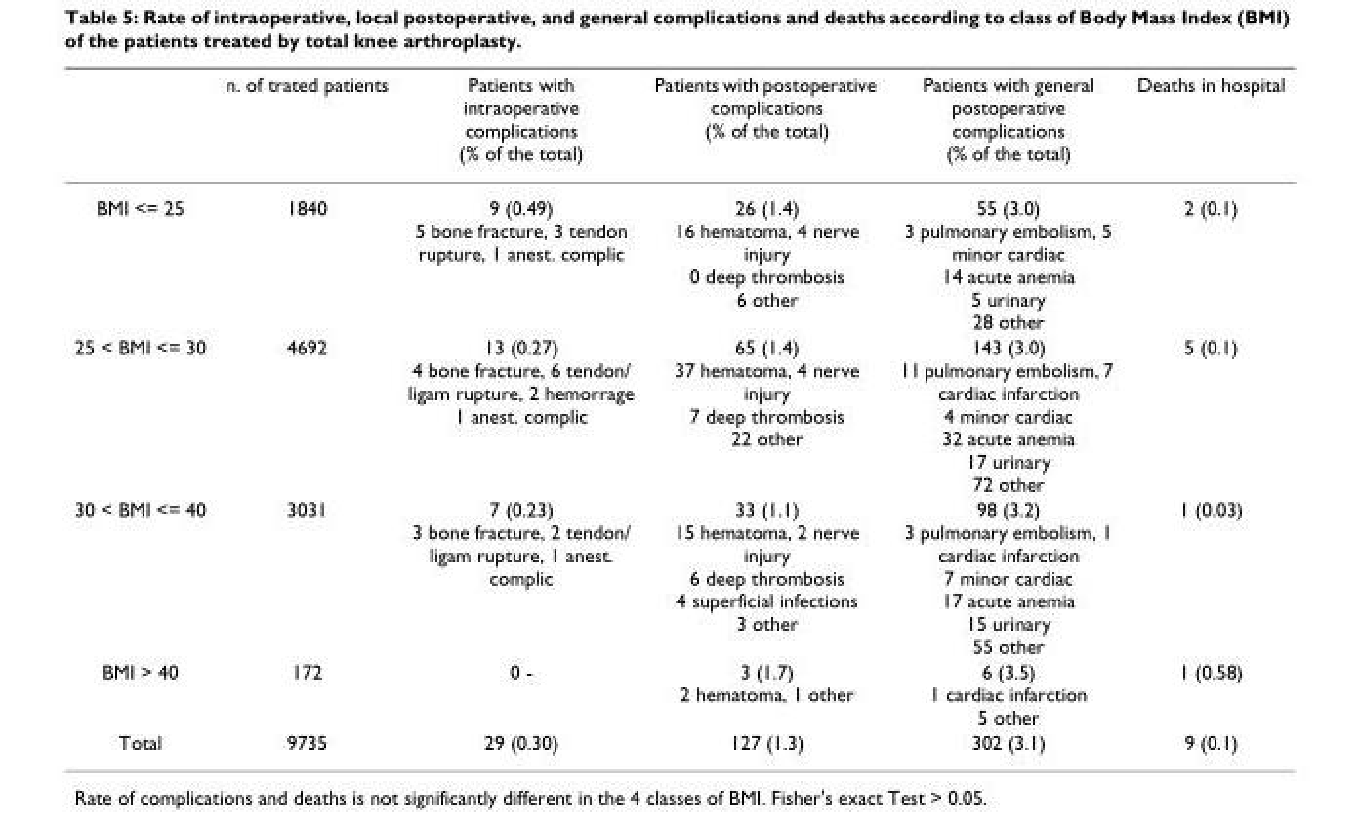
<table><thead><tr><td></td><td>n. of trated patients</td><td>Patients with intraoperative complications (% of the total)</td><td>Patients with postoperative complications (% of the total)</td><td>Patients with general postoperative complications (% of the total)</td><td>Deaths in hospital</td></tr></thead><tbody><tr><td>BMI &lt;= 25</td><td>1840</td><td>9 (0.49) 5 bone fracture, 3 tendon rupture, 1 anest. complic</td><td>26 (1.4) 16 hematoma, 4 nerve injury 0 deep thrombosis 6 other</td><td>55 (3.0) 3 pulmonary embolism, 5 minor cardiac 14 acute anemia 5 urinary 28 other</td><td>2 (0.1)</td></tr><tr><td>25 &lt; BMI &lt;= 30</td><td>4692</td><td>13 (0.27) 4 bone fracture, 6 tendon/ ligam rupture, 2 hemorrage 1 anest. complic</td><td>65 (1.4) 37 hematoma, 4 nerve injury 7 deep thrombosis 22 other</td><td>143 (3.0) 11 pulmonary embolism, 7 cardiac infarction 4 minor cardiac 32 acute anemia 17 urinary 72 other</td><td>5 (0.1)</td></tr><tr><td>30 &lt; BMI &lt;= 40</td><td>3031</td><td>7 (0.23) 3 bone fracture, 2 tendon/ ligam rupture, 1 anest. complic</td><td>33 (1.1) 15 hematoma, 2 nerve injury 6 deep thrombosis 4 superficial infections 3 other</td><td>98 (3.2) 3 pulmonary embolism, 1 cardiac infarction 7 minor cardiac 17 acute anemia 15 urinary 55 other</td><td>1 (0.03)</td></tr><tr><td>BMI &gt; 40</td><td>172</td><td>0 -</td><td>3 (1.7) 2 hematoma, 1 other</td><td>6 (3.5) 1 cardiac infarction 5 other</td><td>1 (0.58)</td></tr><tr><td>Total</td><td>9735</td><td>29 (0.30)</td><td>127 (1.3)</td><td>302 (3.1)</td><td>9 (0.1)</td></tr></tbody></table>